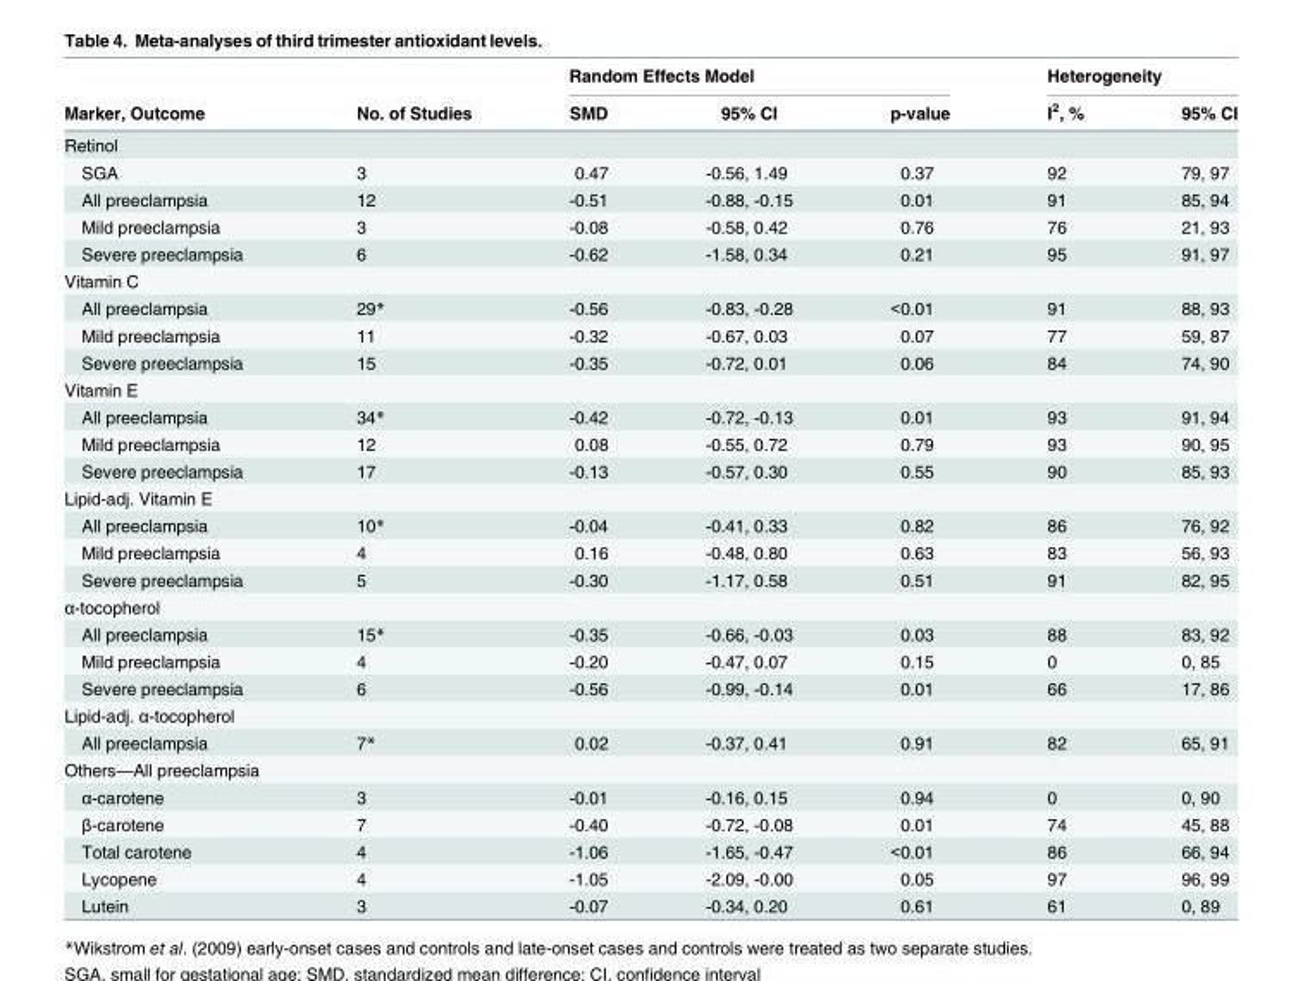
<table><thead><tr><td rowspan="2">Marker, Outcome</td><td rowspan="2">No. of Studies</td><td colspan="3">Random Effects Model</td><td colspan="2">Heterogeneity</td></tr><tr><td>SMD</td><td>95% CI</td><td>p-value</td><td>I<sup>2</sup>, %</td><td>95% CI</td></tr></thead><tbody><tr><td colspan="7">Retinol</td></tr><tr><td>SGA</td><td>3</td><td>0.47</td><td>-0.56, 1.49</td><td>0.37</td><td>92</td><td>79, 97</td></tr><tr><td>All preeclampsia</td><td>12</td><td>-0.51</td><td>-0.88, -0.15</td><td>0.01</td><td>91</td><td>85, 94</td></tr><tr><td>Mild preeclampsia</td><td>3</td><td>-0.08</td><td>-0.58, 0.42</td><td>0.76</td><td>76</td><td>21, 93</td></tr><tr><td>Severe preeclampsia</td><td>6</td><td>-0.62</td><td>-1.58, 0.34</td><td>0.21</td><td>95</td><td>91, 97</td></tr><tr><td colspan="7">Vitamin C</td></tr><tr><td>All preeclampsia</td><td>29*</td><td>-0.56</td><td>-0.83, -0.28</td><td>&lt;0.01</td><td>91</td><td>88, 93</td></tr><tr><td>Mild preeclampsia</td><td>11</td><td>-0.32</td><td>-0.67, 0.03</td><td>0.07</td><td>77</td><td>59, 87</td></tr><tr><td>Severe preeclampsia</td><td>15</td><td>-0.35</td><td>-0.72, 0.01</td><td>0.06</td><td>84</td><td>74, 90</td></tr><tr><td colspan="7">Vitamin E</td></tr><tr><td>All preeclampsia</td><td>34*</td><td>-0.42</td><td>-0.72, -0.13</td><td>0.01</td><td>93</td><td>91, 94</td></tr><tr><td>Mild preeclampsia</td><td>12</td><td>0.08</td><td>-0.55, 0.72</td><td>0.79</td><td>93</td><td>90, 95</td></tr><tr><td>Severe preeclampsia</td><td>17</td><td>-0.13</td><td>-0.57, 0.30</td><td>0.55</td><td>90</td><td>85, 93</td></tr><tr><td colspan="7">Lipid-adj. Vitamin E</td></tr><tr><td>All preeclampsia</td><td>10*</td><td>-0.04</td><td>-0.41, 0.33</td><td>0.82</td><td>86</td><td>76, 92</td></tr><tr><td>Mild preeclampsia</td><td>4</td><td>0.16</td><td>-0.48, 0.80</td><td>0.63</td><td>83</td><td>56, 93</td></tr><tr><td>Severe preeclampsia</td><td>5</td><td>-0.30</td><td>-1.17, 0.58</td><td>0.51</td><td>91</td><td>82, 95</td></tr><tr><td colspan="7">α-tocopherol</td></tr><tr><td>All preeclampsia</td><td>15*</td><td>-0.35</td><td>-0.66, -0.03</td><td>0.03</td><td>88</td><td>83, 92</td></tr><tr><td>Mild preeclampsia</td><td>4</td><td>-0.20</td><td>-0.47, 0.07</td><td>0.15</td><td>0</td><td>0, 85</td></tr><tr><td>Severe preeclampsia</td><td>6</td><td>-0.56</td><td>-0.99, -0.14</td><td>0.01</td><td>66</td><td>17, 86</td></tr><tr><td colspan="7">Lipid-adj. α-tocopherol</td></tr><tr><td>All preeclampsia</td><td>7*</td><td>0.02</td><td>-0.37, 0.41</td><td>0.91</td><td>82</td><td>65, 91</td></tr><tr><td colspan="7">Others—All preeclampsia</td></tr><tr><td>α-carotene</td><td>3</td><td>-0.01</td><td>-0.16, 0.15</td><td>0.94</td><td>0</td><td>0, 90</td></tr><tr><td>β-carotene</td><td>7</td><td>-0.40</td><td>-0.72, -0.08</td><td>0.01</td><td>74</td><td>45, 88</td></tr><tr><td>Total carotene</td><td>4</td><td>-1.06</td><td>-1.65, -0.47</td><td>&lt;0.01</td><td>86</td><td>66, 94</td></tr><tr><td>Lycopene</td><td>4</td><td>-1.05</td><td>-2.09, -0.00</td><td>0.05</td><td>97</td><td>96, 99</td></tr><tr><td>Lutein</td><td>3</td><td>-0.07</td><td>-0.34, 0.20</td><td>0.61</td><td>61</td><td>0, 89</td></tr></tbody></table>